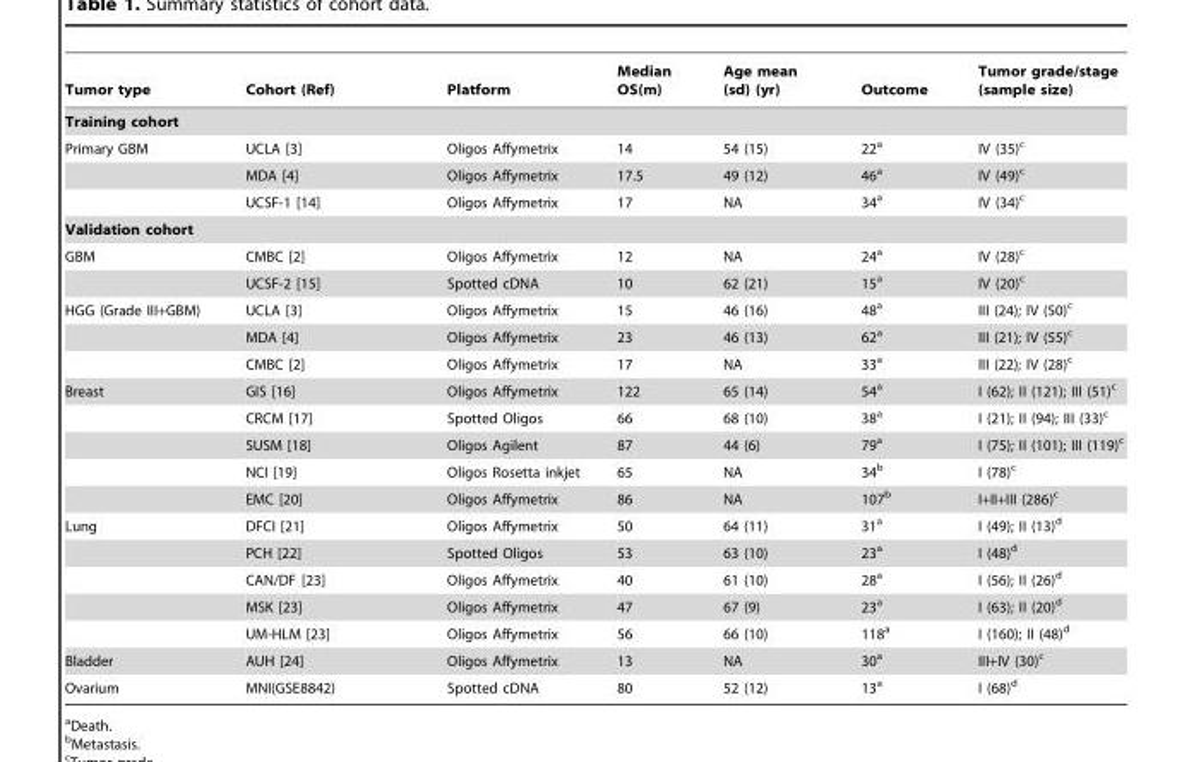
<table><thead><tr><td>Tumor type</td><td>Cohort (Ref)</td><td>Platform</td><td>Median OS(m)</td><td>Age mean (sd) (yr)</td><td>Outcome</td><td>Tumor grade/stage (sample size)</td></tr></thead><tbody><tr><td colspan="7">Training cohort</td></tr><tr><td rowspan="3">Primary GBM</td><td>UCLA [3]</td><td>Oligos Affymetrix</td><td>14</td><td>54 (15)</td><td>22<sup>a</sup></td><td>IV (35)<sup>c</sup></td></tr><tr><td>MDA [4]</td><td>Oligos Affymetrix</td><td>17.5</td><td>49 (12)</td><td>46<sup>a</sup></td><td>IV (49)<sup>c</sup></td></tr><tr><td>UCSF-1 [14]</td><td>Oligos Affymetrix</td><td>17</td><td>NA</td><td>34<sup>a</sup></td><td>IV (34)<sup>c</sup></td></tr><tr><td colspan="7">Validation cohort</td></tr><tr><td rowspan="2">GBM</td><td>CMBC [2]</td><td>Oligos Affymetrix</td><td>12</td><td>NA</td><td>24<sup>a</sup></td><td>IV (28)<sup>c</sup></td></tr><tr><td>UCSF-2 [15]</td><td>Spotted cDNA</td><td>10</td><td>62 (21)</td><td>15<sup>a</sup></td><td>IV (20)<sup>c</sup></td></tr><tr><td rowspan="3">HGG (Grade III+GBM)</td><td>UCLA [3]</td><td>Oligos Affymetrix</td><td>15</td><td>46 (16)</td><td>48<sup>a</sup></td><td>III (24); IV (50)<sup>c</sup></td></tr><tr><td>MDA [4]</td><td>Oligos Affymetrix</td><td>23</td><td>46 (13)</td><td>62<sup>a</sup></td><td>III (21); IV (55)<sup>c</sup></td></tr><tr><td>CMBC [2]</td><td>Oligos Affymetrix</td><td>17</td><td>NA</td><td>33<sup>a</sup></td><td>III (22); IV (28)<sup>c</sup></td></tr><tr><td rowspan="5">Breast</td><td>GIS [16]</td><td>Oligos Affymetrix</td><td>122</td><td>65 (14)</td><td>54<sup>a</sup></td><td>I (62); II (121); III (51)<sup>c</sup></td></tr><tr><td>CRCM [17]</td><td>Spotted Oligos</td><td>66</td><td>68 (10)</td><td>38<sup>a</sup></td><td>I (21); II (94); III (33)<sup>c</sup></td></tr><tr><td>SUSM [18]</td><td>Oligos Agilent</td><td>87</td><td>44 (6)</td><td>79<sup>a</sup></td><td>I (75); II (101); III (119)<sup>c</sup></td></tr><tr><td>NCI [19]</td><td>Oligos Rosetta inkjet</td><td>65</td><td>NA</td><td>34<sup>b</sup></td><td>I (78)<sup>c</sup></td></tr><tr><td>EMC [20]</td><td>Oligos Affymetrix</td><td>86</td><td>NA</td><td>107<sup>b</sup></td><td>I+II+III (286)<sup>c</sup></td></tr><tr><td rowspan="5">Lung</td><td>DFCI [21]</td><td>Oligos Affymetrix</td><td>50</td><td>64 (11)</td><td>31<sup>a</sup></td><td>I (49); II (13)<sup>d</sup></td></tr><tr><td>PCH [22]</td><td>Spotted Oligos</td><td>53</td><td>63 (10)</td><td>23<sup>a</sup></td><td>I (48)<sup>d</sup></td></tr><tr><td>CAN/DF [23]</td><td>Oligos Affymetrix</td><td>40</td><td>61 (10)</td><td>28<sup>a</sup></td><td>I (56); II (26)<sup>d</sup></td></tr><tr><td>MSK [23]</td><td>Oligos Affymetrix</td><td>47</td><td>67 (9)</td><td>23<sup>a</sup></td><td>I (63); II (20)<sup>d</sup></td></tr><tr><td>UM-HLM [23]</td><td>Oligos Affymetrix</td><td>56</td><td>66 (10)</td><td>118<sup>a</sup></td><td>I (160); II (48)<sup>d</sup></td></tr><tr><td>Bladder</td><td>AUH [24]</td><td>Oligos Affymetrix</td><td>13</td><td>NA</td><td>30<sup>a</sup></td><td>III+IV (30)<sup>c</sup></td></tr><tr><td>Ovarium</td><td>MNI(GSE8842)</td><td>Spotted cDNA</td><td>80</td><td>52 (12)</td><td>13<sup>a</sup></td><td>I (68)<sup>d</sup></td></tr></tbody></table>